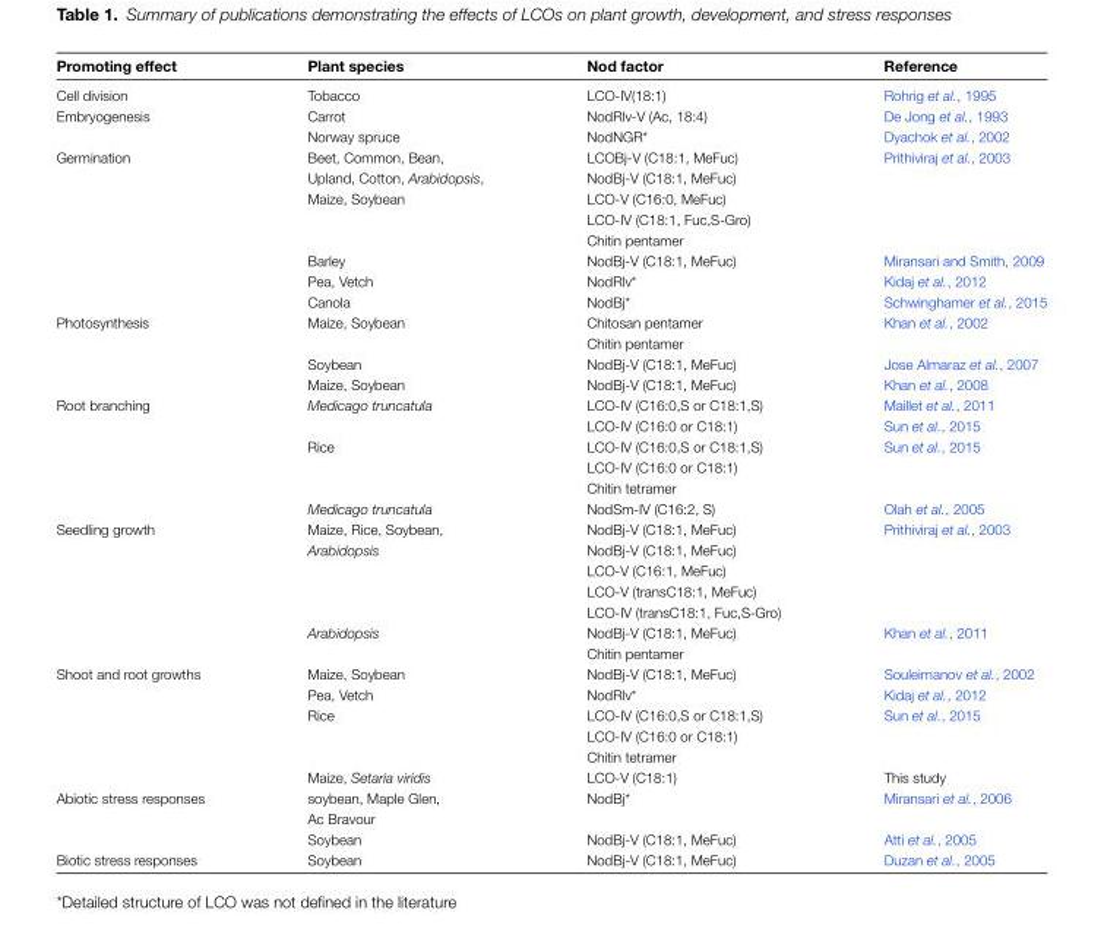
<table><thead><tr><td>Promoting effect</td><td>Plant species</td><td>Nod factor</td><td>Reference</td></tr></thead><tbody><tr><td>Cell division</td><td>Tobacco</td><td>LCO-IV(18:1)</td><td>Rohrig et al., 1995</td></tr><tr><td rowspan="2">Embryogenesis</td><td>Carrot</td><td>NodRlv-V (Ac, 18:4)</td><td>De Jong et al., 1993</td></tr><tr><td>Norway spruce</td><td>NodNGR*</td><td>Dyachok et al., 2002</td></tr><tr><td rowspan="4">Germination</td><td>Beet, Common, Bean, Upland, Cotton, Arabidopsis, Maize, Soybean</td><td>LCOBj-V (C18:1, MeFuc) NodBj-V (C18:1, MeFuc) LCO-V (C16:0, MeFuc) LCO-IV (C18:1, Fuc,S-Gro) Chitin pentamer</td><td>Prithiviraj et al., 2003</td></tr><tr><td>Barley</td><td>NodBj-V (C18:1, MeFuc)</td><td>Miransari and Smith, 2009</td></tr><tr><td>Pea, Vetch</td><td>NodRlv*</td><td>Kidaj et al., 2012</td></tr><tr><td>Canola</td><td>NodBj*</td><td>Schwinghamer et al., 2015</td></tr><tr><td rowspan="3">Photosynthesis</td><td>Maize, Soybean</td><td>Chitosan pentamer Chitin pentamer</td><td>Khan et al., 2002</td></tr><tr><td>Soybean</td><td>NodBj-V (C18:1, MeFuc)</td><td>Jose Almaraz et al., 2007</td></tr><tr><td>Maize, Soybean</td><td>NodBj-V (C18:1, MeFuc)</td><td>Khan et al., 2008</td></tr><tr><td rowspan="3">Root branching</td><td>Medicago truncatula</td><td>LCO-IV (C16:0,S or C18:1,S) LCO-IV (C16:0 or C18:1)</td><td>Maillet et al., 2011 Sun et al., 2015</td></tr><tr><td>Rice</td><td>LCO-IV (C16:0,S or C18:1,S) LCO-IV (C16:0 or C18:1) Chitin tetramer</td><td>Sun et al., 2015</td></tr><tr><td>Medicago truncatula</td><td>NodSm-IV (C16:2, S)</td><td>Olah et al., 2005</td></tr><tr><td rowspan="2">Seedling growth</td><td>Maize, Rice, Soybean, Arabidopsis</td><td>NodBj-V (C18:1, MeFuc) NodBj-V (C18:1, MeFuc) LCO-V (C16:1, MeFuc) LCO-V (transC18:1, MeFuc) LCO-IV (transC18:1, Fuc,S-Gro)</td><td>Prithiviraj et al., 2003</td></tr><tr><td>Arabidopsis</td><td>NodBj-V (C18:1, MeFuc) Chitin pentamer</td><td>Khan et al., 2011</td></tr><tr><td rowspan="4">Shoot and root growths</td><td>Maize, Soybean</td><td>NodBj-V (C18:1, MeFuc)</td><td>Souleimanov et al., 2002</td></tr><tr><td>Pea, Vetch</td><td>NodRlv*</td><td>Kidaj et al., 2012</td></tr><tr><td>Rice</td><td>LCO-IV (C16:0,S or C18:1,S) LCO-IV (C16:0 or C18:1) Chitin tetramer</td><td>Sun et al., 2015</td></tr><tr><td>Maize, Setaria viridis</td><td>LCO-V (C18:1)</td><td>This study</td></tr><tr><td rowspan="2">Abiotic stress responses</td><td>soybean, Maple Glen, Ac Bravour</td><td>NodBj*</td><td>Miransari et al., 2006</td></tr><tr><td>Soybean</td><td>NodBj-V (C18:1, MeFuc)</td><td>Atti et al., 2005</td></tr><tr><td>Biotic stress responses</td><td>Soybean</td><td>NodBj-V (C18:1, MeFuc)</td><td>Duzan et al., 2005</td></tr></tbody></table>